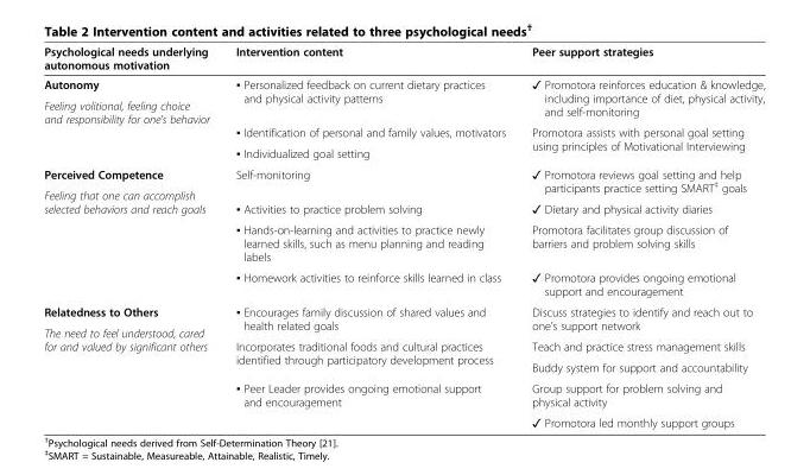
<table><thead><tr><td>Psychological needs underlying autonomous motivation</td><td>Intervention content</td><td>Peer support strategies</td></tr></thead><tbody><tr><td>Autonomy</td><td rowspan="2">▪ Personalized feedback on current dietary practices and physical activity patterns</td><td rowspan="2">✓ Promotora reinforces education &amp; knowledge, including importance of diet, physical activity, and self-monitoring</td></tr><tr><td rowspan="3">Feeling volitional, feeling choice and responsibility for one&#x27;s behavior</td></tr><tr><td>▪ Identification of personal and family values, motivators</td><td rowspan="2">Promotora assists with personal goal setting using principles of Motivational Interviewing</td></tr><tr><td>▪ Individualized goal setting</td></tr><tr><td>Perceived Competence</td><td rowspan="2">Self-monitoring</td><td rowspan="2">✓ Promotora reviews goal setting and help participants practice setting SMART<sup>‡</sup> goals</td></tr><tr><td rowspan="4">Feeling that one can accomplish selected behaviors and reach goals</td></tr><tr><td>▪ Activities to practice problem solving</td><td>✓ Dietary and physical activity diaries</td></tr><tr><td>▪ Hands-on-learning and activities to practice newly learned skills, such as menu planning and reading labels</td><td>Promotora facilitates group discussion of barriers and problem solving skills</td></tr><tr><td>▪ Homework activities to reinforce skills learned in class</td><td>✓ Promotora provides ongoing emotional support and encouragement</td></tr><tr><td>Relatedness to Others</td><td rowspan="2">▪ Encourages family discussion of shared values and health related goals</td><td rowspan="2">Discuss strategies to identify and reach out to one’s support network</td></tr><tr><td rowspan="5">The need to feel understood, cared for and valued by significant others</td></tr><tr><td rowspan="2">Incorporates traditional foods and cultural practices identified through participatory development process</td><td>Teach and practice stress management skills</td></tr><tr><td>Buddy system for support and accountability</td></tr><tr><td rowspan="2">▪ Peer Leader provides ongoing emotional support and encouragement</td><td>Group support for problem solving and physical activity</td></tr><tr><td>✓ Promotora led monthly support groups</td></tr></tbody></table>